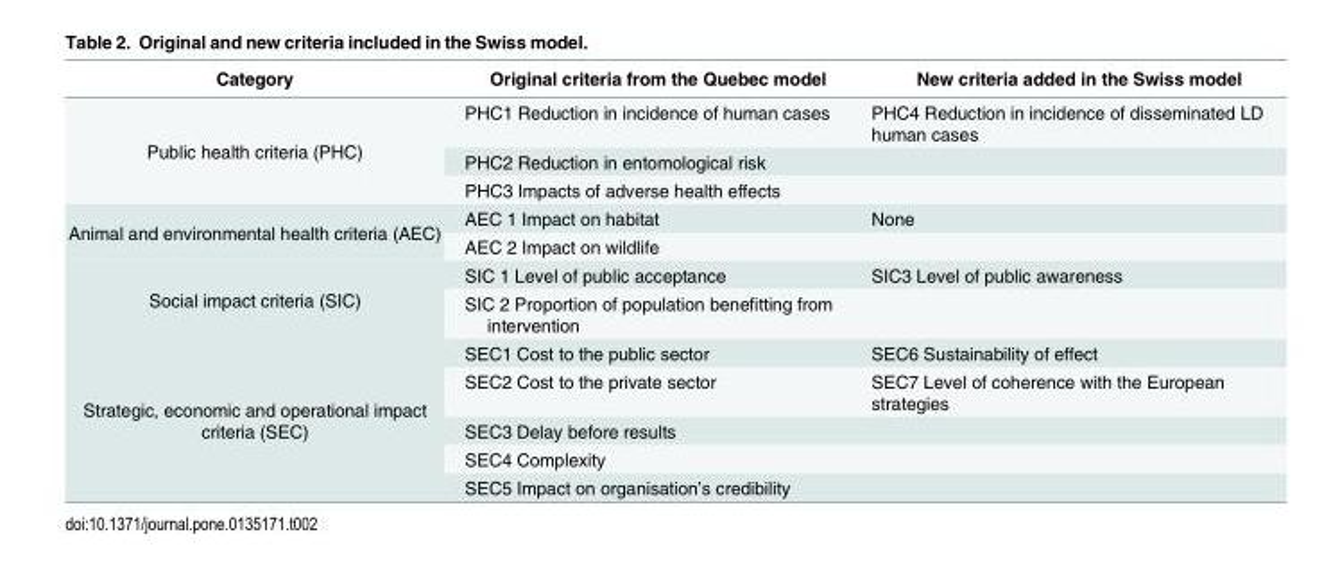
<table><thead><tr><td>Category</td><td>Original criteria from the Quebec model</td><td>New criteria added in the Swiss model</td></tr></thead><tbody><tr><td rowspan="3">Public health criteria (PHC)</td><td>PHC1 Reduction in incidence of human cases</td><td>PHC4 Reduction in incidence of disseminated LD human cases</td></tr><tr><td>PHC2 Reduction in entomological risk</td><td></td></tr><tr><td>PHC3 Impacts of adverse health effects</td><td></td></tr><tr><td rowspan="2">Animal and environmental health criteria (AEC)</td><td>AEC 1 Impact on habitat</td><td>None</td></tr><tr><td>AEC 2 Impact on wildlife</td><td></td></tr><tr><td rowspan="2">Social impact criteria (SIC)</td><td>SIC 1 Level of public acceptance</td><td>SIC3 Level of public awareness</td></tr><tr><td>SIC 2 Proportion of population benefitting from intervention</td><td></td></tr><tr><td rowspan="5">Strategic, economic and operational impact criteria (SEC)</td><td>SEC1 Cost to the public sector</td><td>SEC6 Sustainability of effect</td></tr><tr><td>SEC2 Cost to the private sector</td><td>SEC7 Level of coherence with the European strategies</td></tr><tr><td>SEC3 Delay before results</td><td></td></tr><tr><td>SEC4 Complexity</td><td></td></tr><tr><td>SEC5 Impact on organisation’s credibility</td><td></td></tr></tbody></table>